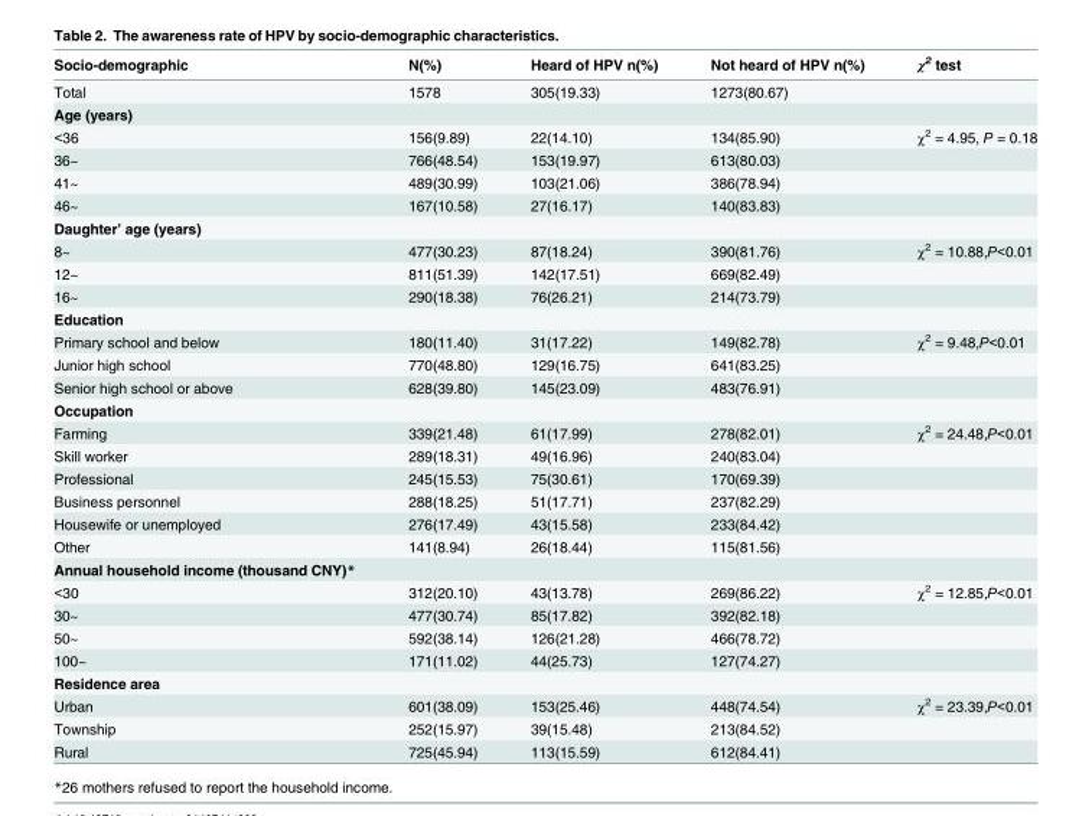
<table><thead><tr><td>Socio-demographic</td><td>N(%)</td><td>Heard of HPV n(%)</td><td>Not heard of HPV n(%)</td><td>χ<sup>2</sup> test</td></tr></thead><tbody><tr><td>Total</td><td>1578</td><td>305(19.33)</td><td>1273(80.67)</td><td></td></tr><tr><td colspan="5">Age (years)</td></tr><tr><td>&lt;36</td><td>156(9.89)</td><td>22(14.10)</td><td>134(85.90)</td><td>χ<sup>2</sup> = 4.95, P = 0.18</td></tr><tr><td>36~</td><td>766(48.54)</td><td>153(19.97)</td><td>613(80.03)</td><td></td></tr><tr><td>41~</td><td>489(30.99)</td><td>103(21.06)</td><td>386(78.94)</td><td></td></tr><tr><td>46~</td><td>167(10.58)</td><td>27(16.17)</td><td>140(83.83)</td><td></td></tr><tr><td colspan="5">Daughter’ age (years)</td></tr><tr><td>8~</td><td>477(30.23)</td><td>87(18.24)</td><td>390(81.76)</td><td>χ<sup>2</sup> = 10.88,P&lt;0.01</td></tr><tr><td>12~</td><td>811(51.39)</td><td>142(17.51)</td><td>669(82.49)</td><td></td></tr><tr><td>16~</td><td>290(18.38)</td><td>76(26.21)</td><td>214(73.79)</td><td></td></tr><tr><td colspan="5">Education</td></tr><tr><td>Primary school and below</td><td>180(11.40)</td><td>31(17.22)</td><td>149(82.78)</td><td>χ<sup>2</sup> = 9.48,P&lt;0.01</td></tr><tr><td>Junior high school</td><td>770(48.80)</td><td>129(16.75)</td><td>641(83.25)</td><td></td></tr><tr><td>Senior high school or above</td><td>628(39.80)</td><td>145(23.09)</td><td>483(76.91)</td><td></td></tr><tr><td colspan="5">Occupation</td></tr><tr><td>Farming</td><td>339(21.48)</td><td>61(17.99)</td><td>278(82.01)</td><td>χ<sup>2</sup> = 24.48,P&lt;0.01</td></tr><tr><td>Skill worker</td><td>289(18.31)</td><td>49(16.96)</td><td>240(83.04)</td><td></td></tr><tr><td>Professional</td><td>245(15.53)</td><td>75(30.61)</td><td>170(69.39)</td><td></td></tr><tr><td>Business personnel</td><td>288(18.25)</td><td>51(17.71)</td><td>237(82.29)</td><td></td></tr><tr><td>Housewife or unemployed</td><td>276(17.49)</td><td>43(15.58)</td><td>233(84.42)</td><td></td></tr><tr><td>Other</td><td>141(8.94)</td><td>26(18.44)</td><td>115(81.56)</td><td></td></tr><tr><td colspan="5">Annual household income (thousand CNY)*</td></tr><tr><td>&lt;30</td><td>312(20.10)</td><td>43(13.78)</td><td>269(86.22)</td><td>χ<sup>2</sup> = 12.85,P&lt;0.01</td></tr><tr><td>30~</td><td>477(30.74)</td><td>85(17.82)</td><td>392(82.18)</td><td></td></tr><tr><td>50~</td><td>592(38.14)</td><td>126(21.28)</td><td>466(78.72)</td><td></td></tr><tr><td>100~</td><td>171(11.02)</td><td>44(25.73)</td><td>127(74.27)</td><td></td></tr><tr><td colspan="5">Residence area</td></tr><tr><td>Urban</td><td>601(38.09)</td><td>153(25.46)</td><td>448(74.54)</td><td>χ<sup>2</sup> = 23.39,P&lt;0.01</td></tr><tr><td>Township</td><td>252(15.97)</td><td>39(15.48)</td><td>213(84.52)</td><td></td></tr><tr><td>Rural</td><td>725(45.94)</td><td>113(15.59)</td><td>612(84.41)</td><td></td></tr></tbody></table>